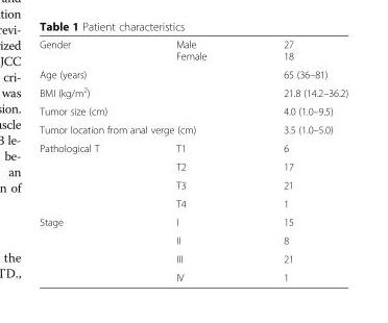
<table><thead><tr><td>Gender</td><td>Male</td><td>27</td></tr></thead><tbody><tr><td></td><td>Female</td><td>18</td></tr><tr><td colspan="2">Age (years)</td><td>65 (36–81)</td></tr><tr><td colspan="2">BMI (kg/m<sup>2</sup>)</td><td>21.8 (14.2–36.2)</td></tr><tr><td colspan="2">Tumor size (cm)</td><td>4.0 (1.0–9.5)</td></tr><tr><td colspan="2">Tumor location from anal verge (cm)</td><td>3.5 (1.0–5.0)</td></tr><tr><td rowspan="4">Pathological T</td><td>T1</td><td>6</td></tr><tr><td>T2</td><td>17</td></tr><tr><td>T3</td><td>21</td></tr><tr><td>T4</td><td>1</td></tr><tr><td rowspan="4">Stage</td><td>I</td><td>15</td></tr><tr><td>II</td><td>8</td></tr><tr><td>III</td><td>21</td></tr><tr><td>IV</td><td>1</td></tr></tbody></table>